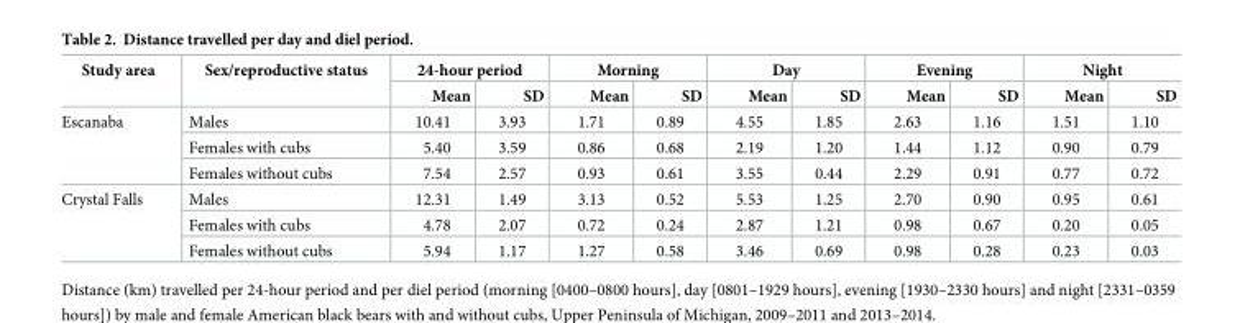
<table><thead><tr><td rowspan="2">Study area</td><td rowspan="2">Sex/reproductive status</td><td colspan="2">24-hour period</td><td colspan="2">Morning</td><td colspan="2">Day</td><td colspan="2">Evening</td><td colspan="2">Night</td></tr><tr><td>Mean</td><td>SD</td><td>Mean</td><td>SD</td><td>Mean</td><td>SD</td><td>Mean</td><td>SD</td><td>Mean</td><td>SD</td></tr></thead><tbody><tr><td rowspan="3">Escanaba</td><td>Males</td><td>10.41</td><td>3.93</td><td>1.71</td><td>0.89</td><td>4.55</td><td>1.85</td><td>2.63</td><td>1.16</td><td>1.51</td><td>1.10</td></tr><tr><td>Females with cubs</td><td>5.40</td><td>3.59</td><td>0.86</td><td>0.68</td><td>2.19</td><td>1.20</td><td>1.44</td><td>1.12</td><td>0.90</td><td>0.79</td></tr><tr><td>Females without cubs</td><td>7.54</td><td>2.57</td><td>0.93</td><td>0.61</td><td>3.55</td><td>0.44</td><td>2.29</td><td>0.91</td><td>0.77</td><td>0.72</td></tr><tr><td rowspan="3">Crystal Falls</td><td>Males</td><td>12.31</td><td>1.49</td><td>3.13</td><td>0.52</td><td>5.53</td><td>1.25</td><td>2.70</td><td>0.90</td><td>0.95</td><td>0.61</td></tr><tr><td>Females with cubs</td><td>4.78</td><td>2.07</td><td>0.72</td><td>0.24</td><td>2.87</td><td>1.21</td><td>0.98</td><td>0.67</td><td>0.20</td><td>0.05</td></tr><tr><td>Females without cubs</td><td>5.94</td><td>1.17</td><td>1.27</td><td>0.58</td><td>3.46</td><td>0.69</td><td>0.98</td><td>0.28</td><td>0.23</td><td>0.03</td></tr></tbody></table>